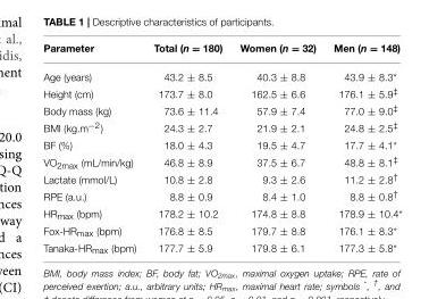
<table><thead><tr><td>Parameter</td><td>Total (n = 180)</td><td>Women (n = 32)</td><td>Men (n = 148)</td></tr></thead><tbody><tr><td>Age (years)</td><td>43.2 ± 8.5</td><td>40.3 ± 8.8</td><td>43.9 ± 8.3*</td></tr><tr><td>Height (cm)</td><td>173.7 ± 8.0</td><td>162.5 ± 6.6</td><td>176.1 ± 5.9<sup>‡</sup></td></tr><tr><td>Body mass (kg)</td><td>73.6 ± 11.4</td><td>57.9 ± 7.4</td><td>77.0 ± 9.0<sup>‡</sup></td></tr><tr><td>BMI (kg.m<sup>−2</sup>)</td><td>24.3 ± 2.7</td><td>21.9 ± 2.1</td><td>24.8 ± 2.5<sup>‡</sup></td></tr><tr><td>BF (%)</td><td>18.0 ± 4.3</td><td>19.5 ± 4.7</td><td>17.7 ± 4.1*</td></tr><tr><td>VO<sub>2max</sub> (mL/min/kg)</td><td>46.8 ± 8.9</td><td>37.5 ± 6.7</td><td>48.8 ± 8.1<sup>‡</sup></td></tr><tr><td>Lactate (mmol/L)</td><td>10.8 ± 2.8</td><td>9.3 ± 2.6</td><td>11.2 ± 2.8<sup>†</sup></td></tr><tr><td>RPE (a.u.)</td><td>8.8 ± 0.9</td><td>8.4 ± 1.0</td><td>8.8 ± 0.8<sup>†</sup></td></tr><tr><td>HR<sub>max</sub> (bpm)</td><td>178.2 ± 10.2</td><td>174.8 ± 8.8</td><td>178.9 ± 10.4*</td></tr><tr><td>Fox-HR<sub>max</sub> (bpm)</td><td>176.8 ± 8.5</td><td>179.7 ± 8.8</td><td>176.1 ± 8.3*</td></tr><tr><td>Tanaka-HR<sub>max</sub> (bpm)</td><td>177.7 ± 5.9</td><td>179.8 ± 6.1</td><td>177.3 ± 5.8*</td></tr></tbody></table>